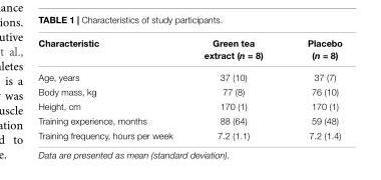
<table><thead><tr><td>Characteristic</td><td>Green tea extract (n = 8)</td><td>Placebo (n = 8)</td></tr></thead><tbody><tr><td>Age, years</td><td>37 (10)</td><td>37 (7)</td></tr><tr><td>Body mass, kg</td><td>77 (8)</td><td>76 (10)</td></tr><tr><td>Height, cm</td><td>170 (1)</td><td>170 (1)</td></tr><tr><td>Training experience, months</td><td>88 (64)</td><td>59 (48)</td></tr><tr><td>Training frequency, hours per week</td><td>7.2 (1.1)</td><td>7.2 (1.4)</td></tr></tbody></table>